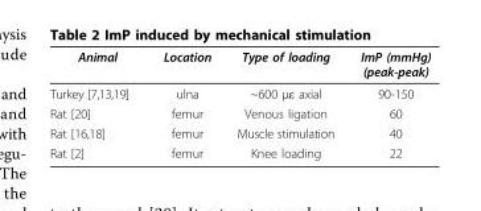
<table><thead><tr><td>Animal</td><td>Location</td><td>Type of loading</td><td>ImP (mmHg) (peak-peak)</td></tr></thead><tbody><tr><td>Turkey [7,13,19]</td><td>ulna</td><td>~600 με axial</td><td>90-150</td></tr><tr><td>Rat [20]</td><td>femur</td><td>Venous ligation</td><td>60</td></tr><tr><td>Rat [16,18]</td><td>femur</td><td>Muscle stimulation</td><td>40</td></tr><tr><td>Rat [2]</td><td>femur</td><td>Knee loading</td><td>22</td></tr></tbody></table>